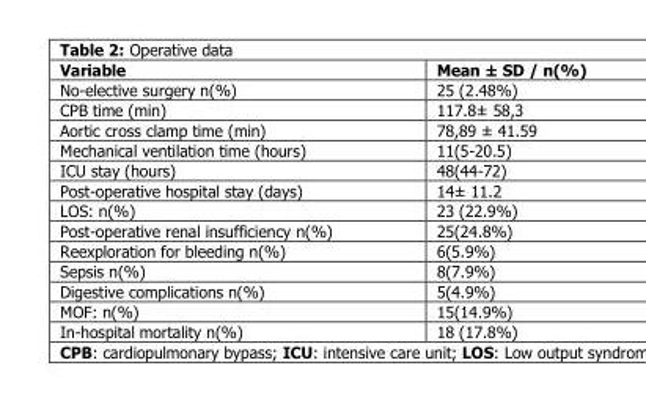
<table><thead><tr><td>Variable</td><td>Mean ± SD / n(%)</td></tr></thead><tbody><tr><td>No-elective surgery n(%)</td><td>25 (2.48%)</td></tr><tr><td>CPB time (min)</td><td>117.8± 58,3</td></tr><tr><td>Aortic cross clamp time (min)</td><td>78,89 ± 41.59</td></tr><tr><td>Mechanical ventilation time (hours)</td><td>11(5-20.5)</td></tr><tr><td>ICU stay (hours)</td><td>48(44-72)</td></tr><tr><td>Post-operative hospital stay (days)</td><td>14± 11.2</td></tr><tr><td>LOS: n(%)</td><td>23 (22.9%)</td></tr><tr><td>Post-operative renal insufficiency n(%)</td><td>25(24.8%)</td></tr><tr><td>Reexploration for bleeding n(%)</td><td>6(5.9%)</td></tr><tr><td>Sepsis n(%)</td><td>8(7.9%)</td></tr><tr><td>Digestive complications n(%)</td><td>5(4.9%)</td></tr><tr><td>MOF: n(%)</td><td>15(14.9%)</td></tr><tr><td>In-hospital mortality n(%)</td><td>18 (17.8%)</td></tr></tbody></table>